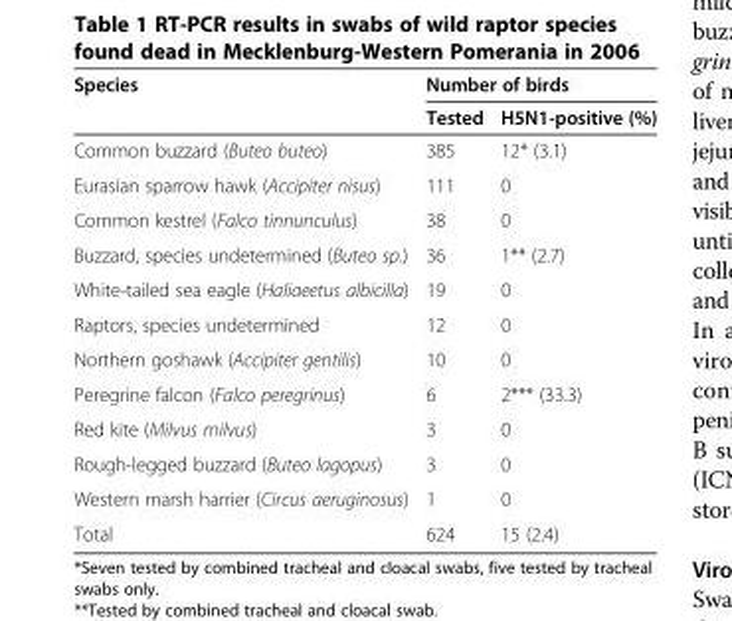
<table><thead><tr><td rowspan="2">Species</td><td colspan="2">Number of birds</td></tr><tr><td>Tested</td><td>H5N1-positive (%)</td></tr></thead><tbody><tr><td>Common buzzard (Buteo buteo)</td><td>385</td><td>12* (3.1)</td></tr><tr><td>Eurasian sparrow hawk (Accipiter nisus)</td><td>111</td><td>0</td></tr><tr><td>Common kestrel (Falco tinnunculus)</td><td>38</td><td>0</td></tr><tr><td>Buzzard, species undetermined (Buteo sp.)</td><td>36</td><td>1** (2.7)</td></tr><tr><td>White-tailed sea eagle (Haliaeetus albicilla)</td><td>19</td><td>0</td></tr><tr><td>Raptors, species undetermined</td><td>12</td><td>0</td></tr><tr><td>Northern goshawk (Accipiter gentilis)</td><td>10</td><td>0</td></tr><tr><td>Peregrine falcon (Falco peregrinus)</td><td>6</td><td>2*** (33.3)</td></tr><tr><td>Red kite (Milvus milvus)</td><td>3</td><td>0</td></tr><tr><td>Rough-legged buzzard (Buteo lagopus)</td><td>3</td><td>0</td></tr><tr><td>Western marsh harrier (Circus aeruginosus)</td><td>1</td><td>0</td></tr><tr><td>Total</td><td>624</td><td>15 (2.4)</td></tr></tbody></table>